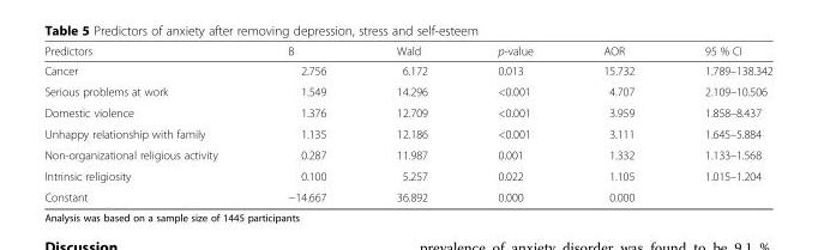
<table><thead><tr><td>Predictors</td><td>B</td><td>Wald</td><td>p-value</td><td>AOR</td><td>95 % CI</td></tr></thead><tbody><tr><td>Cancer</td><td>2.756</td><td>6.172</td><td>0.013</td><td>15.732</td><td>1.789–138.342</td></tr><tr><td>Serious problems at work</td><td>1.549</td><td>14.296</td><td>&lt;0.001</td><td>4.707</td><td>2.109–10.506</td></tr><tr><td>Domestic violence</td><td>1.376</td><td>12.709</td><td>&lt;0.001</td><td>3.959</td><td>1.858–8.437</td></tr><tr><td>Unhappy relationship with family</td><td>1.135</td><td>12.186</td><td>&lt;0.001</td><td>3.111</td><td>1.645–5.884</td></tr><tr><td>Non-organizational religious activity</td><td>0.287</td><td>11.987</td><td>0.001</td><td>1.332</td><td>1.133–1.568</td></tr><tr><td>Intrinsic religiosity</td><td>0.100</td><td>5.257</td><td>0.022</td><td>1.105</td><td>1.015–1.204</td></tr><tr><td>Constant</td><td>−14.667</td><td>36.892</td><td>0.000</td><td>0.000</td><td></td></tr></tbody></table>